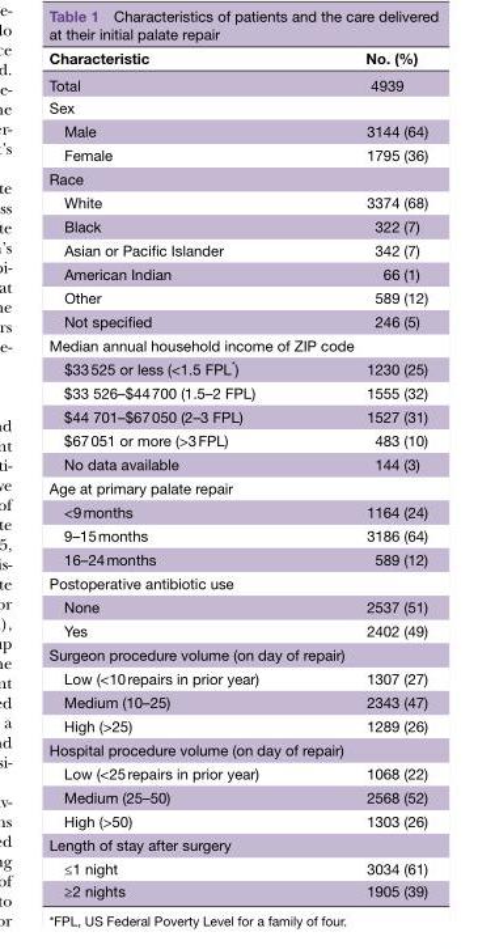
<table><thead><tr><td>Characteristic</td><td>No. (%)</td></tr></thead><tbody><tr><td>Total</td><td>4939</td></tr><tr><td colspan="2">Sex</td></tr><tr><td>Male</td><td>3144 (64)</td></tr><tr><td>Female</td><td>1795 (36)</td></tr><tr><td colspan="2">Race</td></tr><tr><td>White</td><td>3374 (68)</td></tr><tr><td>Black</td><td>322 (7)</td></tr><tr><td>Asian or Pacific Islander</td><td>342 (7)</td></tr><tr><td>American Indian</td><td>66 (1)</td></tr><tr><td>Other</td><td>589 (12)</td></tr><tr><td>Not specified</td><td>246 (5)</td></tr><tr><td colspan="2">Median annual household income of ZIP code</td></tr><tr><td>$33 525 or less (&lt;1.5 FPL*)</td><td>1230 (25)</td></tr><tr><td>$33 526–$44 700 (1.5–2 FPL)</td><td>1555 (32)</td></tr><tr><td>$44 701–$67 050 (2–3 FPL)</td><td>1527 (31)</td></tr><tr><td>$67 051 or more (&gt;3 FPL)</td><td>483 (10)</td></tr><tr><td>No data available</td><td>144 (3)</td></tr><tr><td colspan="2">Age at primary palate repair</td></tr><tr><td>&lt;9 months</td><td>1164 (24)</td></tr><tr><td>9–15 months</td><td>3186 (64)</td></tr><tr><td>16–24 months</td><td>589 (12)</td></tr><tr><td colspan="2">Postoperative antibiotic use</td></tr><tr><td>None</td><td>2537 (51)</td></tr><tr><td>Yes</td><td>2402 (49)</td></tr><tr><td colspan="2">Surgeon procedure volume (on day of repair)</td></tr><tr><td>Low (&lt;10 repairs in prior year)</td><td>1307 (27)</td></tr><tr><td>Medium (10–25)</td><td>2343 (47)</td></tr><tr><td>High (&gt;25)</td><td>1289 (26)</td></tr><tr><td colspan="2">Hospital procedure volume (on day of repair)</td></tr><tr><td>Low (&lt;25 repairs in prior year)</td><td>1068 (22)</td></tr><tr><td>Medium (25–50)</td><td>2568 (52)</td></tr><tr><td>High (&gt;50)</td><td>1303 (26)</td></tr><tr><td colspan="2">Length of stay after surgery</td></tr><tr><td>≤1 night</td><td>3034 (61)</td></tr><tr><td>≥2 nights</td><td>1905 (39)</td></tr></tbody></table>